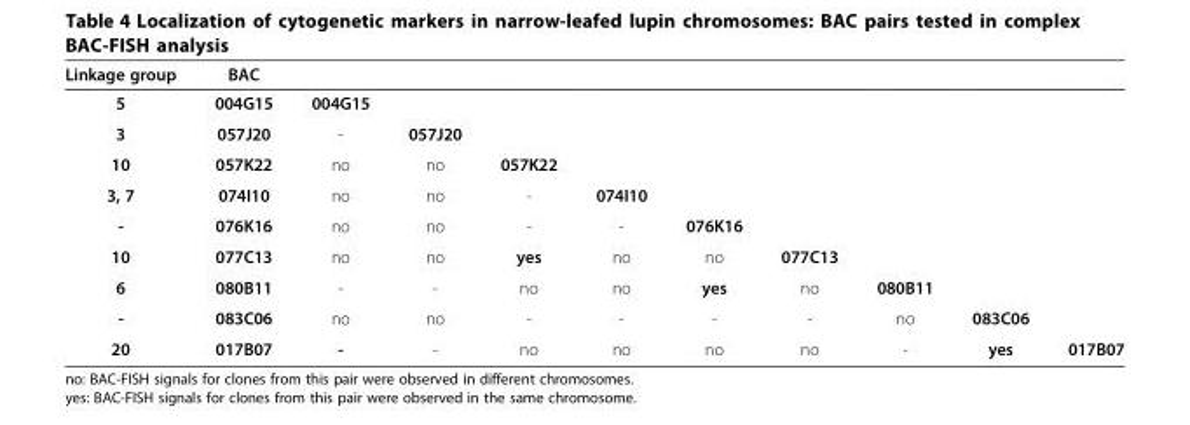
<table><thead><tr><td>Linkage group</td><td>BAC</td><td></td><td></td><td></td><td></td><td></td><td></td><td></td><td></td><td></td></tr></thead><tbody><tr><td>5</td><td>004G15</td><td>004G15</td><td></td><td></td><td></td><td></td><td></td><td></td><td></td><td></td></tr><tr><td>3</td><td>057J20</td><td>-</td><td>057J20</td><td></td><td></td><td></td><td></td><td></td><td></td><td></td></tr><tr><td>10</td><td>057K22</td><td>no</td><td>no</td><td>057K22</td><td></td><td></td><td></td><td></td><td></td><td></td></tr><tr><td>3, 7</td><td>074I10</td><td>no</td><td>no</td><td>-</td><td>074I10</td><td></td><td></td><td></td><td></td><td></td></tr><tr><td>-</td><td>076K16</td><td>no</td><td>no</td><td>-</td><td>-</td><td>076K16</td><td></td><td></td><td></td><td></td></tr><tr><td>10</td><td>077C13</td><td>no</td><td>no</td><td>yes</td><td>no</td><td>no</td><td>077C13</td><td></td><td></td><td></td></tr><tr><td>6</td><td>080B11</td><td>-</td><td>-</td><td>no</td><td>no</td><td>yes</td><td>no</td><td>080B11</td><td></td><td></td></tr><tr><td>-</td><td>083C06</td><td>no</td><td>no</td><td>-</td><td>-</td><td>-</td><td>-</td><td>no</td><td>083C06</td><td></td></tr><tr><td>20</td><td>017B07</td><td>-</td><td>-</td><td>no</td><td>no</td><td>no</td><td>no</td><td>-</td><td>yes</td><td>017B07</td></tr></tbody></table>